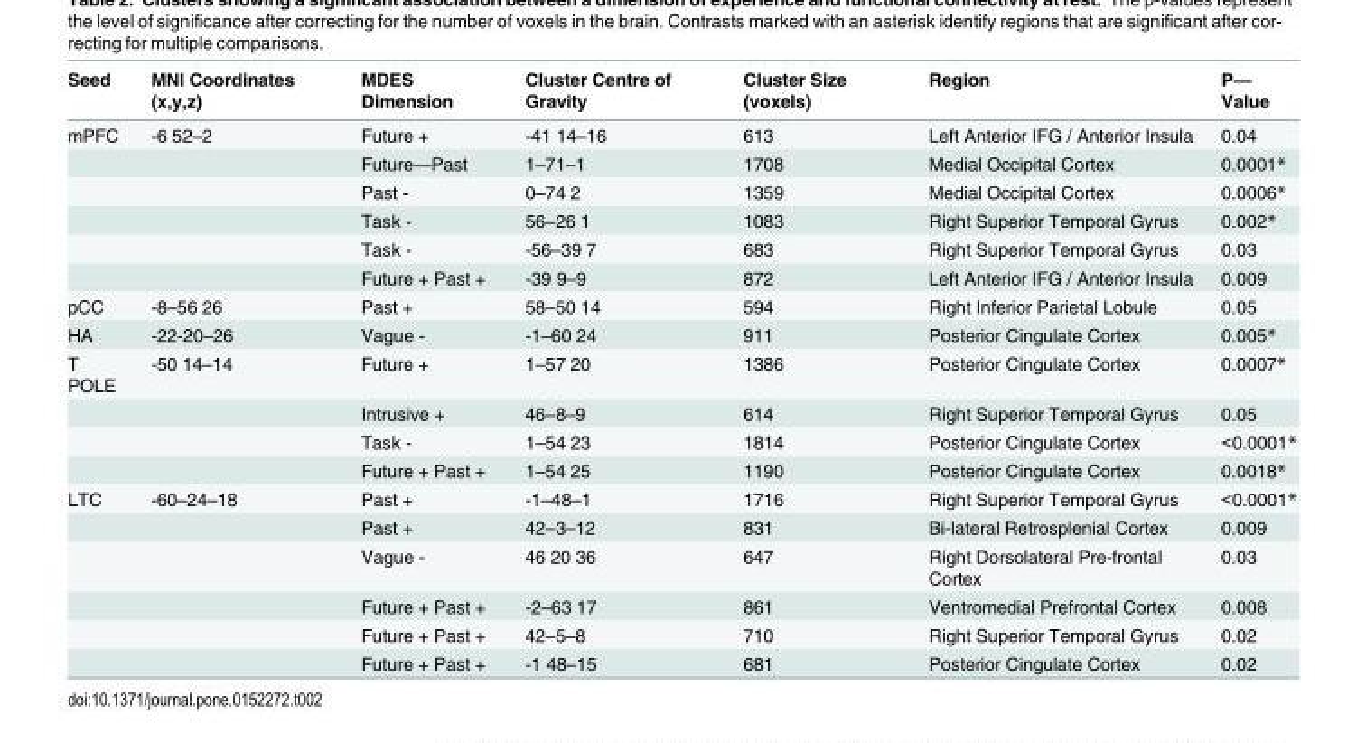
<table><thead><tr><td>Seed</td><td>MNI Coordinates (x,y,z)</td><td>MDES Dimension</td><td>Cluster Centre of Gravity</td><td>Cluster Size (voxels)</td><td>Region</td><td>P— Value</td></tr></thead><tbody><tr><td rowspan="6">mPFC</td><td>-6 52–2</td><td>Future +</td><td>-41 14–16</td><td>613</td><td>Left Anterior IFG / Anterior Insula</td><td>0.04</td></tr><tr><td></td><td>Future—Past</td><td>1–71–1</td><td>1708</td><td>Medial Occipital Cortex</td><td>0.0001*</td></tr><tr><td></td><td>Past -</td><td>0–74 2</td><td>1359</td><td>Medial Occipital Cortex</td><td>0.0006*</td></tr><tr><td></td><td>Task -</td><td>56–26 1</td><td>1083</td><td>Right Superior Temporal Gyrus</td><td>0.002*</td></tr><tr><td></td><td>Task -</td><td>-56–39 7</td><td>683</td><td>Right Superior Temporal Gyrus</td><td>0.03</td></tr><tr><td></td><td>Future + Past +</td><td>-39 9–9</td><td>872</td><td>Left Anterior IFG / Anterior Insula</td><td>0.009</td></tr><tr><td>pCC</td><td>-8–56 26</td><td>Past +</td><td>58–50 14</td><td>594</td><td>Right Inferior Parietal Lobule</td><td>0.05</td></tr><tr><td>HA</td><td>-22-20–26</td><td>Vague -</td><td>-1–60 24</td><td>911</td><td>Posterior Cingulate Cortex</td><td>0.005*</td></tr><tr><td rowspan="4">T POLE</td><td>-50 14–14</td><td>Future +</td><td>1–57 20</td><td>1386</td><td>Posterior Cingulate Cortex</td><td>0.0007*</td></tr><tr><td></td><td>Intrusive +</td><td>46–8–9</td><td>614</td><td>Right Superior Temporal Gyrus</td><td>0.05</td></tr><tr><td></td><td>Task -</td><td>1–54 23</td><td>1814</td><td>Posterior Cingulate Cortex</td><td>&lt;0.0001*</td></tr><tr><td></td><td>Future + Past +</td><td>1–54 25</td><td>1190</td><td>Posterior Cingulate Cortex</td><td>0.0018*</td></tr><tr><td rowspan="6">LTC</td><td>-60–24–18</td><td>Past +</td><td>-1–48–1</td><td>1716</td><td>Right Superior Temporal Gyrus</td><td>&lt;0.0001*</td></tr><tr><td></td><td>Past +</td><td>42–3–12</td><td>831</td><td>Bi-lateral Retrosplenial Cortex</td><td>0.009</td></tr><tr><td></td><td>Vague -</td><td>46 20 36</td><td>647</td><td>Right Dorsolateral Pre-frontal Cortex</td><td>0.03</td></tr><tr><td></td><td>Future + Past +</td><td>-2–63 17</td><td>861</td><td>Ventromedial Prefrontal Cortex</td><td>0.008</td></tr><tr><td></td><td>Future + Past +</td><td>42–5–8</td><td>710</td><td>Right Superior Temporal Gyrus</td><td>0.02</td></tr><tr><td></td><td>Future + Past +</td><td>-1 48–15</td><td>681</td><td>Posterior Cingulate Cortex</td><td>0.02</td></tr></tbody></table>